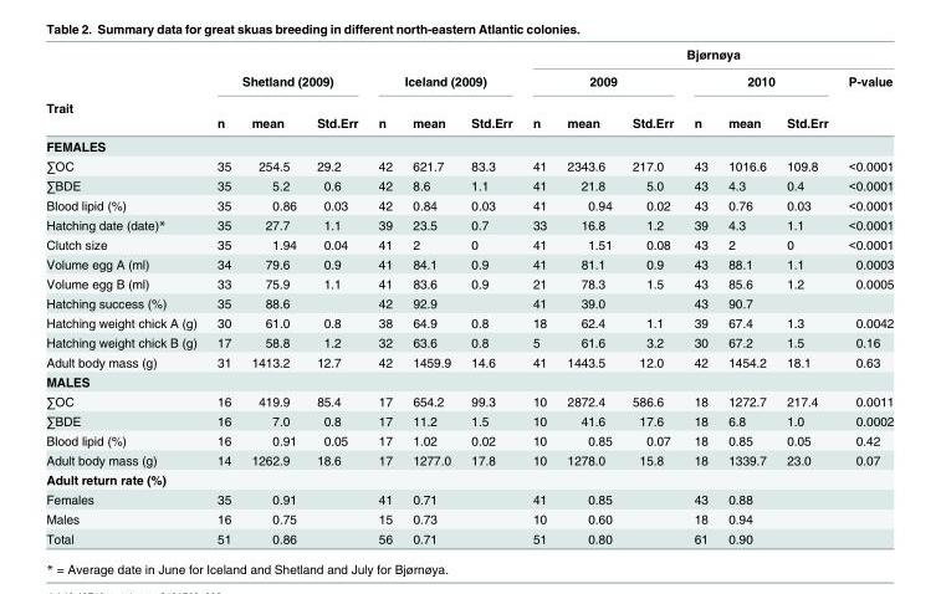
<table><thead><tr><td rowspan="4">Trait</td><td></td><td></td><td></td><td></td><td></td><td></td><td colspan="7">Bjørnøya</td></tr><tr><td colspan="3">Shetland (2009)</td><td colspan="3">Iceland (2009)</td><td colspan="3">2009</td><td colspan="3">2010</td><td rowspan="3">P-value</td></tr><tr><td rowspan="2">n</td><td rowspan="2">mean</td><td rowspan="2">Std.Err</td><td rowspan="2">n</td><td rowspan="2">mean</td><td rowspan="2">Std.Err</td><td rowspan="2">n</td><td rowspan="2">mean</td><td rowspan="2">Std.Err</td><td rowspan="2">n</td><td rowspan="2">mean</td><td rowspan="2">Std.Err</td></tr><tr></tr></thead><tbody><tr><td colspan="14">FEMALES</td></tr><tr><td>∑OC</td><td>35</td><td>254.5</td><td>29.2</td><td>42</td><td>621.7</td><td>83.3</td><td>41</td><td>2343.6</td><td>217.0</td><td>43</td><td>1016.6</td><td>109.8</td><td>&lt;0.0001</td></tr><tr><td>∑BDE</td><td>35</td><td>5.2</td><td>0.6</td><td>42</td><td>8.6</td><td>1.1</td><td>41</td><td>21.8</td><td>5.0</td><td>43</td><td>4.3</td><td>0.4</td><td>&lt;0.0001</td></tr><tr><td>Blood lipid (%)</td><td>35</td><td>0.86</td><td>0.03</td><td>42</td><td>0.84</td><td>0.03</td><td>41</td><td>0.94</td><td>0.02</td><td>43</td><td>0.76</td><td>0.03</td><td>&lt;0.0001</td></tr><tr><td>Hatching date (date)*</td><td>35</td><td>27.7</td><td>1.1</td><td>39</td><td>23.5</td><td>0.7</td><td>33</td><td>16.8</td><td>1.2</td><td>39</td><td>4.3</td><td>1.1</td><td>&lt;0.0001</td></tr><tr><td>Clutch size</td><td>35</td><td>1.94</td><td>0.04</td><td>41</td><td>2</td><td>0</td><td>41</td><td>1.51</td><td>0.08</td><td>43</td><td>2</td><td>0</td><td>&lt;0.0001</td></tr><tr><td>Volume egg A (ml)</td><td>34</td><td>79.6</td><td>0.9</td><td>41</td><td>84.1</td><td>0.9</td><td>41</td><td>81.1</td><td>0.9</td><td>43</td><td>88.1</td><td>1.1</td><td>0.0003</td></tr><tr><td>Volume egg B (ml)</td><td>33</td><td>75.9</td><td>1.1</td><td>41</td><td>83.6</td><td>0.9</td><td>21</td><td>78.3</td><td>1.5</td><td>43</td><td>85.6</td><td>1.2</td><td>0.0005</td></tr><tr><td>Hatching success (%)</td><td>35</td><td>88.6</td><td></td><td>42</td><td>92.9</td><td></td><td>41</td><td>39.0</td><td></td><td>43</td><td>90.7</td><td></td><td></td></tr><tr><td>Hatching weight chick A (g)</td><td>30</td><td>61.0</td><td>0.8</td><td>38</td><td>64.9</td><td>0.8</td><td>18</td><td>62.4</td><td>1.1</td><td>39</td><td>67.4</td><td>1.3</td><td>0.0042</td></tr><tr><td>Hatching weight chick B (g)</td><td>17</td><td>58.8</td><td>1.2</td><td>32</td><td>63.6</td><td>0.8</td><td>5</td><td>61.6</td><td>3.2</td><td>30</td><td>67.2</td><td>1.5</td><td>0.16</td></tr><tr><td>Adult body mass (g)</td><td>31</td><td>1413.2</td><td>12.7</td><td>42</td><td>1459.9</td><td>14.6</td><td>41</td><td>1443.5</td><td>12.0</td><td>42</td><td>1454.2</td><td>18.1</td><td>0.63</td></tr><tr><td colspan="14">MALES</td></tr><tr><td>∑OC</td><td>16</td><td>419.9</td><td>85.4</td><td>17</td><td>654.2</td><td>99.3</td><td>10</td><td>2872.4</td><td>586.6</td><td>18</td><td>1272.7</td><td>217.4</td><td>0.0011</td></tr><tr><td>∑BDE</td><td>16</td><td>7.0</td><td>0.8</td><td>17</td><td>11.2</td><td>1.5</td><td>10</td><td>41.6</td><td>17.6</td><td>18</td><td>6.8</td><td>1.0</td><td>0.0002</td></tr><tr><td>Blood lipid (%)</td><td>16</td><td>0.91</td><td>0.05</td><td>17</td><td>1.02</td><td>0.02</td><td>10</td><td>0.85</td><td>0.07</td><td>18</td><td>0.85</td><td>0.05</td><td>0.42</td></tr><tr><td>Adult body mass (g)</td><td>14</td><td>1262.9</td><td>18.6</td><td>17</td><td>1277.0</td><td>17.8</td><td>10</td><td>1278.0</td><td>15.8</td><td>18</td><td>1339.7</td><td>23.0</td><td>0.07</td></tr><tr><td colspan="14">Adult return rate (%)</td></tr><tr><td>Females</td><td>35</td><td>0.91</td><td></td><td>41</td><td>0.71</td><td></td><td>41</td><td>0.85</td><td></td><td>43</td><td>0.88</td><td></td><td></td></tr><tr><td>Males</td><td>16</td><td>0.75</td><td></td><td>15</td><td>0.73</td><td></td><td>10</td><td>0.60</td><td></td><td>18</td><td>0.94</td><td></td><td></td></tr><tr><td>Total</td><td>51</td><td>0.86</td><td></td><td>56</td><td>0.71</td><td></td><td>51</td><td>0.80</td><td></td><td>61</td><td>0.90</td><td></td><td></td></tr></tbody></table>